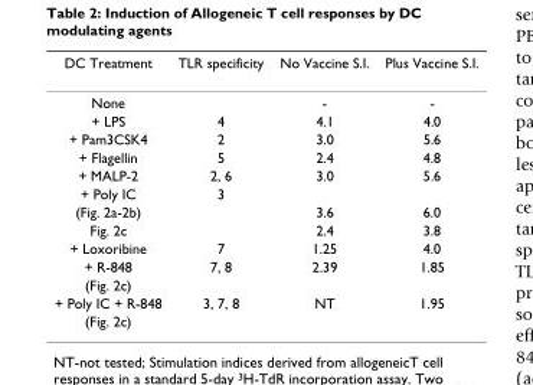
<table><thead><tr><td>DC Treatment</td><td>TLR specificity</td><td>No Vaccine S.I.</td><td>Plus Vaccine S.I.</td></tr></thead><tbody><tr><td>None</td><td></td><td>-</td><td>-</td></tr><tr><td>+ LPS</td><td>4</td><td>4.1</td><td>4.0</td></tr><tr><td>+ Pam3CSK4</td><td>2</td><td>3.0</td><td>5.6</td></tr><tr><td>+ Flagellin</td><td>5</td><td>2.4</td><td>4.8</td></tr><tr><td>+ MALP-2</td><td>2, 6</td><td>3.0</td><td>5.6</td></tr><tr><td>+ Poly IC</td><td>3</td><td></td><td></td></tr><tr><td>(Fig. 2a-2b)</td><td></td><td>3.6</td><td>6.0</td></tr><tr><td>Fig. 2c</td><td></td><td>2.4</td><td>3.8</td></tr><tr><td>+ Loxoribine</td><td>7</td><td>1.25</td><td>4.0</td></tr><tr><td>+ R-848</td><td>7, 8</td><td>2.39</td><td>1.85</td></tr><tr><td colspan="4">(Fig. 2c)</td></tr><tr><td>+ Poly IC + R-848</td><td>3, 7, 8</td><td>NT</td><td>1.95</td></tr><tr><td>(Fig. 2c)</td><td></td><td></td><td></td></tr></tbody></table>